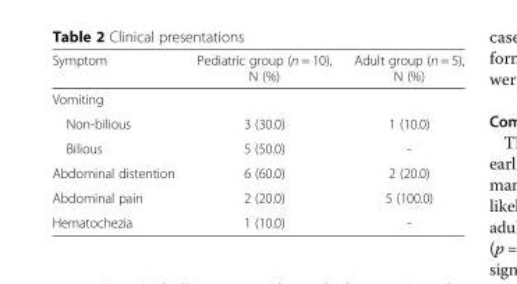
<table><thead><tr><td>Symptom</td><td>Pediatric group (n = 10), N (%)</td><td>Adult group (n = 5), N (%)</td></tr></thead><tbody><tr><td colspan="3">Vomiting</td></tr><tr><td>Non-bilious</td><td>3 (30.0)</td><td>1 (10.0)</td></tr><tr><td>Bilious</td><td>5 (50.0)</td><td>-</td></tr><tr><td>Abdominal distention</td><td>6 (60.0)</td><td>2 (20.0)</td></tr><tr><td>Abdominal pain</td><td>2 (20.0)</td><td>5 (100.0)</td></tr><tr><td>Hematochezia</td><td>1 (10.0)</td><td>-</td></tr></tbody></table>